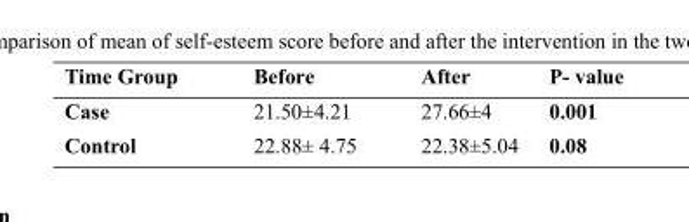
<table><thead><tr><td>P- value</td><td>After</td><td>Before</td><td>Time Group</td></tr></thead><tbody><tr><td>0.001</td><td>27.66±4</td><td>21.50±4.21</td><td>Case</td></tr><tr><td>0.08</td><td>22.38±5.04</td><td>22.88± 4.75</td><td>Control</td></tr></tbody></table>